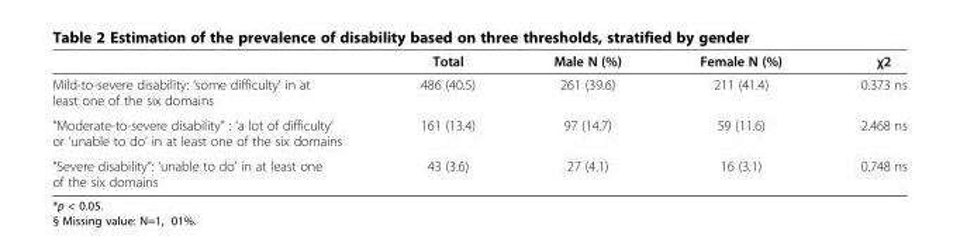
<table><thead><tr><td></td><td>Total</td><td>Male N (%)</td><td>Female N (%)</td><td>χ2</td></tr></thead><tbody><tr><td>Mild-to-severe disability: ‘some difficulty’ in at least one of the six domains</td><td>486 (40.5)</td><td>261 (39.6)</td><td>211 (41.4)</td><td>0.373 ns</td></tr><tr><td>“Moderate-to-severe disability” : ‘a lot of difficulty’ or ‘unable to do’ in at least one of the six domains</td><td>161 (13.4)</td><td>97 (14.7)</td><td>59 (11.6)</td><td>2.468 ns</td></tr><tr><td>“Severe disability”: ‘unable to do’ in at least one of the six domains</td><td>43 (3.6)</td><td>27 (4.1)</td><td>16 (3.1)</td><td>0.748 ns</td></tr></tbody></table>